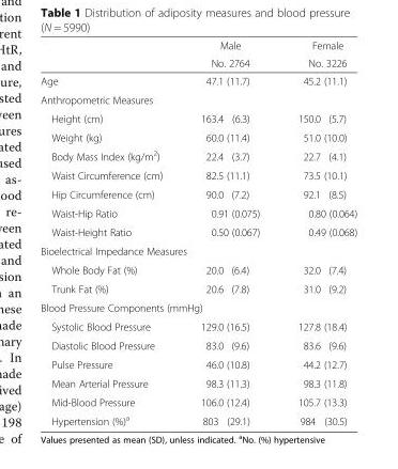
<table><thead><tr><td rowspan="2"></td><td rowspan="2">Male No. 2764</td><td rowspan="2">Female No. 3226</td></tr><tr></tr></thead><tbody><tr><td>Age</td><td>47.1 (11.7)</td><td>45.2 (11.1)</td></tr><tr><td colspan="3">Anthropometric Measures</td></tr><tr><td>Height (cm)</td><td>163.4 (6.3)</td><td>150.0 (5.7)</td></tr><tr><td>Weight (kg)</td><td>60.0 (11.4)</td><td>51.0 (10.0)</td></tr><tr><td>Body Mass Index (kg/m<sup>2</sup>)</td><td>22.4 (3.7)</td><td>22.7 (4.1)</td></tr><tr><td>Waist Circumference (cm)</td><td>82.5 (11.1)</td><td>73.5 (10.1)</td></tr><tr><td>Hip Circumference (cm)</td><td>90.0 (7.2)</td><td>92.1 (8.5)</td></tr><tr><td>Waist-Hip Ratio</td><td>0.91 (0.075)</td><td>0.80 (0.064)</td></tr><tr><td>Waist-Height Ratio</td><td>0.50 (0.067)</td><td>0.49 (0.068)</td></tr><tr><td colspan="3">Bioelectrical Impedance Measures</td></tr><tr><td>Whole Body Fat (%)</td><td>20.0 (6.4)</td><td>32.0 (7.4)</td></tr><tr><td>Trunk Fat (%)</td><td>20.6 (7.8)</td><td>31.0 (9.2)</td></tr><tr><td colspan="3">Blood Pressure Components (mmHg)</td></tr><tr><td>Systolic Blood Pressure</td><td>129.0 (16.5)</td><td>127.8 (18.4)</td></tr><tr><td>Diastolic Blood Pressure</td><td>83.0 (9.6)</td><td>83.6 (9.6)</td></tr><tr><td>Pulse Pressure</td><td>46.0 (10.8)</td><td>44.2 (12.7)</td></tr><tr><td>Mean Arterial Pressure</td><td>98.3 (11.3)</td><td>98.3 (11.8)</td></tr><tr><td>Mid-Blood Pressure</td><td>106.0 (12.4)</td><td>105.7 (13.3)</td></tr><tr><td>Hypertension (%)<sup>a</sup></td><td>803 (29.1)</td><td>984 (30.5)</td></tr></tbody></table>